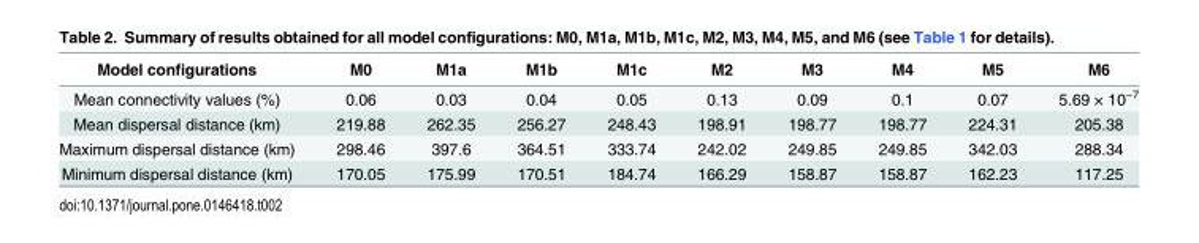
<table><thead><tr><td>Model configurations</td><td>M0</td><td>M1a</td><td>M1b</td><td>M1c</td><td>M2</td><td>M3</td><td>M4</td><td>M5</td><td>M6</td></tr></thead><tbody><tr><td>Mean connectivity values (%)</td><td>0.06</td><td>0.03</td><td>0.04</td><td>0.05</td><td>0.13</td><td>0.09</td><td>0.1</td><td>0.07</td><td>5.69 × 10<sup>−7</sup></td></tr><tr><td>Mean dispersal distance (km)</td><td>219.88</td><td>262.35</td><td>256.27</td><td>248.43</td><td>198.91</td><td>198.77</td><td>198.77</td><td>224.31</td><td>205.38</td></tr><tr><td>Maximum dispersal distance (km)</td><td>298.46</td><td>397.6</td><td>364.51</td><td>333.74</td><td>242.02</td><td>249.85</td><td>249.85</td><td>342.03</td><td>288.34</td></tr><tr><td>Minimum dispersal distance (km)</td><td>170.05</td><td>175.99</td><td>170.51</td><td>184.74</td><td>166.29</td><td>158.87</td><td>158.87</td><td>162.23</td><td>117.25</td></tr></tbody></table>